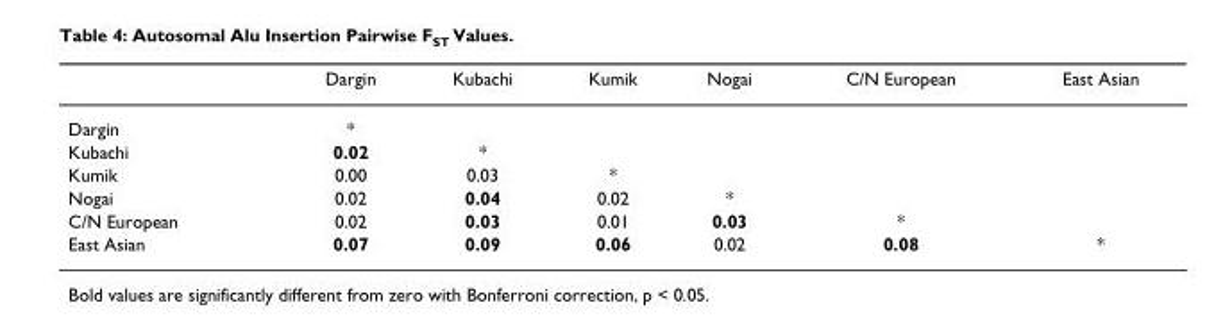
<table><thead><tr><td></td><td>Dargin</td><td>Kubachi</td><td>Kumik</td><td>Nogai</td><td>C/N European</td><td>East Asian</td></tr></thead><tbody><tr><td>Dargin</td><td>*</td><td></td><td></td><td></td><td></td><td></td></tr><tr><td>Kubachi</td><td>0.02</td><td>*</td><td></td><td></td><td></td><td></td></tr><tr><td>Kumik</td><td>0.00</td><td>0.03</td><td>*</td><td></td><td></td><td></td></tr><tr><td>Nogai</td><td>0.02</td><td>0.04</td><td>0.02</td><td>*</td><td></td><td></td></tr><tr><td>C/N European</td><td>0.02</td><td>0.03</td><td>0.01</td><td>0.03</td><td>*</td><td></td></tr><tr><td>East Asian</td><td>0.07</td><td>0.09</td><td>0.06</td><td>0.02</td><td>0.08</td><td>*</td></tr></tbody></table>